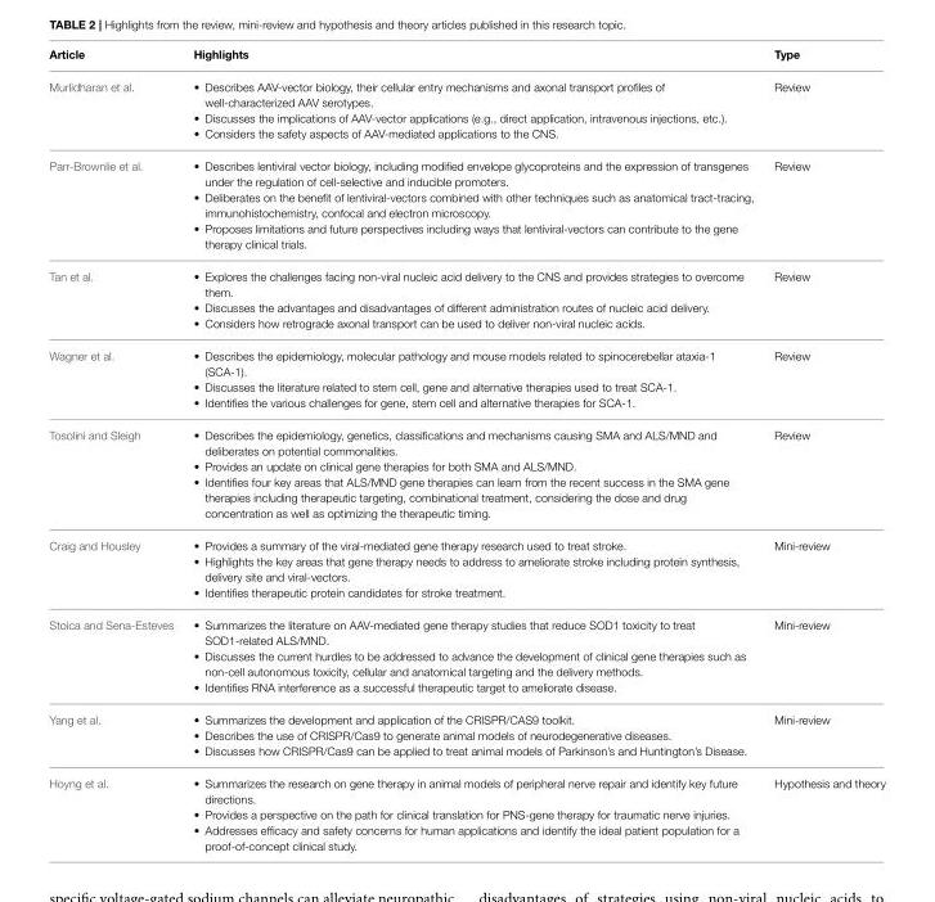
<table><thead><tr><td>Article</td><td>Highlights</td><td>Type</td></tr></thead><tbody><tr><td>Murlidharan et al.</td><td>• Describes AAV-vector biology, their cellular entry mechanisms and axonal transport profiles of well-characterized AAV serotypes. • Discusses the implications of AAV-vector applications (e.g., direct application, intravenous injections, etc.). • Considers the safety aspects of AAV-mediated applications to the CNS.</td><td>Review</td></tr><tr><td>Parr-Brownlie et al.</td><td>• Describes lentiviral vector biology, including modified envelope glycoproteins and the expression of transgenes under the regulation of cell-selective and inducible promoters. • Deliberates on the benefit of lentiviral-vectors combined with other techniques such as anatomical tract-tracing, immunohistochemistry, confocal and electron microscopy. • Proposes limitations and future perspectives including ways that lentiviral-vectors can contribute to the gene therapy clinical trials.</td><td>Review</td></tr><tr><td>Tan et al.</td><td>• Explores the challenges facing non-viral nucleic acid delivery to the CNS and provides strategies to overcome them. • Discusses the advantages and disadvantages of different administration routes of nucleic acid delivery. • Considers how retrograde axonal transport can be used to deliver non-viral nucleic acids.</td><td>Review</td></tr><tr><td>Wagner et al.</td><td>• Describes the epidemiology, molecular pathology and mouse models related to spinocerebellar ataxia-1 (SCA-1). • Discusses the literature related to stem cell, gene and alternative therapies used to treat SCA-1. • Identifies the various challenges for gene, stem cell and alternative therapies for SCA-1.</td><td>Review</td></tr><tr><td>Tosolini and Sleigh</td><td>• Describes the epidemiology, genetics, classifications and mechanisms causing SMA and ALS/MND and deliberates on potential commonalities. • Provides an update on clinical gene therapies for both SMA and ALS/MND. • Identifies four key areas that ALS/MND gene therapies can learn from the recent success in the SMA gene therapies including therapeutic targeting, combinational treatment, considering the dose and drug concentration as well as optimizing the therapeutic timing.</td><td>Review</td></tr><tr><td>Craig and Housley</td><td>• Provides a summary of the viral-mediated gene therapy research used to treat stroke. • Highlights the key areas that gene therapy needs to address to ameliorate stroke including protein synthesis, delivery site and viral-vectors. • Identifies therapeutic protein candidates for stroke treatment.</td><td>Mini-review</td></tr><tr><td>Stoica and Sena-Esteves</td><td>• Summarizes the literature on AAV-mediated gene therapy studies that reduce SOD1 toxicity to treat SOD1-related ALS/MND. • Discusses the current hurdles to be addressed to advance the development of clinical gene therapies such as non-cell autonomous toxicity, cellular and anatomical targeting and the delivery methods. • Identifies RNA interference as a successful therapeutic target to ameliorate disease.</td><td>Mini-review</td></tr><tr><td>Yang et al.</td><td>• Summarizes the development and application of the CRISPR/CAS9 toolkit. • Describes the use of CRISPR/Cas9 to generate animal models of neurodegenerative diseases. • Discusses how CRISPR/Cas9 can be applied to treat animal models of Parkinson’s and Huntington’s Disease.</td><td>Mini-review</td></tr><tr><td>Hoyng et al.</td><td>• Summarizes the research on gene therapy in animal models of peripheral nerve repair and identify key future directions. • Provides a perspective on the path for clinical translation for PNS-gene therapy for traumatic nerve injuries. • Addresses efficacy and safety concerns for human applications and identify the ideal patient population for a proof-of-concept clinical study.</td><td>Hypothesis and theory</td></tr></tbody></table>